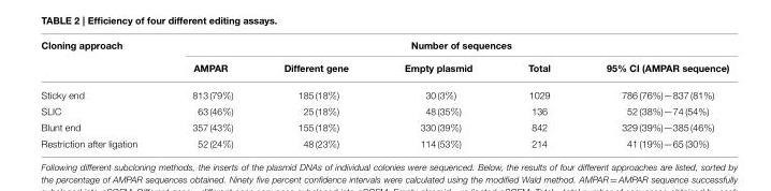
<table><thead><tr><td rowspan="2">Cloning approach</td><td colspan="5">Number of sequences</td></tr><tr><td>AMPAR</td><td>Different gene</td><td>Empty plasmid</td><td>Total</td><td>95% CI (AMPAR sequence)</td></tr></thead><tbody><tr><td>Sticky end</td><td>813 (79%)</td><td>185 (18%)</td><td>30 (3%)</td><td>1029</td><td>786 (76%)—837 (81%)</td></tr><tr><td>SLIC</td><td>63 (46%)</td><td>25 (18%)</td><td>48 (35%)</td><td>136</td><td>52 (38%)—74 (54%)</td></tr><tr><td>Blunt end</td><td>357 (43%)</td><td>155 (18%)</td><td>330 (39%)</td><td>842</td><td>329 (39%)—385 (46%)</td></tr><tr><td>Restriction after ligation</td><td>52 (24%)</td><td>48 (23%)</td><td>114 (53%)</td><td>214</td><td>41 (19%)—65 (30%)</td></tr></tbody></table>